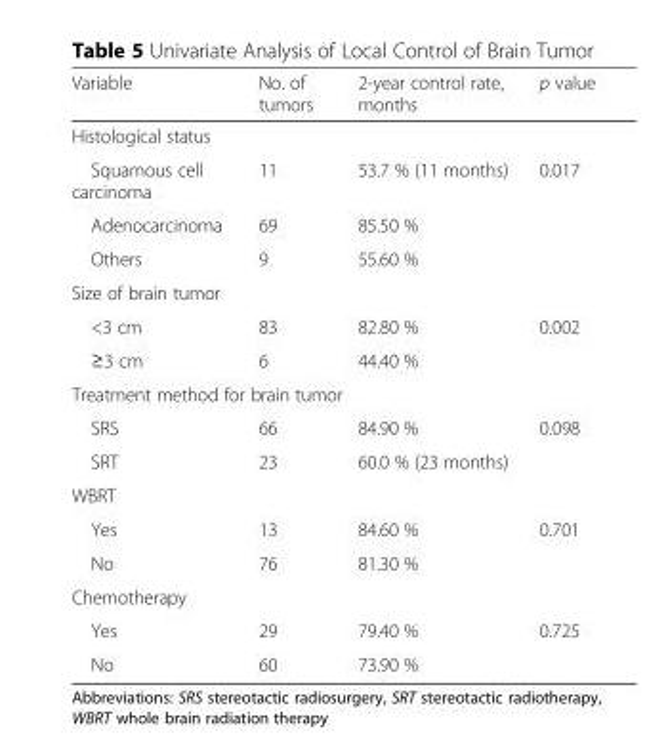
<table><thead><tr><td>Variable</td><td>No. of tumors</td><td>2-year control rate, months</td><td>p value</td></tr></thead><tbody><tr><td colspan="4">Histological status</td></tr><tr><td>Squamous cell carcinoma</td><td>11</td><td>53.7 % (11 months)</td><td rowspan="3">0.017</td></tr><tr><td>Adenocarcinoma</td><td>69</td><td>85.50 %</td></tr><tr><td>Others</td><td>9</td><td>55.60 %</td></tr><tr><td colspan="4">Size of brain tumor</td></tr><tr><td>&lt;3 cm</td><td>83</td><td>82.80 %</td><td rowspan="2">0.002</td></tr><tr><td>≥3 cm</td><td>6</td><td>44.40 %</td></tr><tr><td colspan="4">Treatment method for brain tumor</td></tr><tr><td>SRS</td><td>66</td><td>84.90 %</td><td rowspan="2">0.098</td></tr><tr><td>SRT</td><td>23</td><td>60.0 % (23 months)</td></tr><tr><td colspan="4">WBRT</td></tr><tr><td>Yes</td><td>13</td><td>84.60 %</td><td rowspan="2">0.701</td></tr><tr><td>No</td><td>76</td><td>81.30 %</td></tr><tr><td colspan="4">Chemotherapy</td></tr><tr><td>Yes</td><td>29</td><td>79.40 %</td><td rowspan="2">0.725</td></tr><tr><td>No</td><td>60</td><td>73.90 %</td></tr></tbody></table>